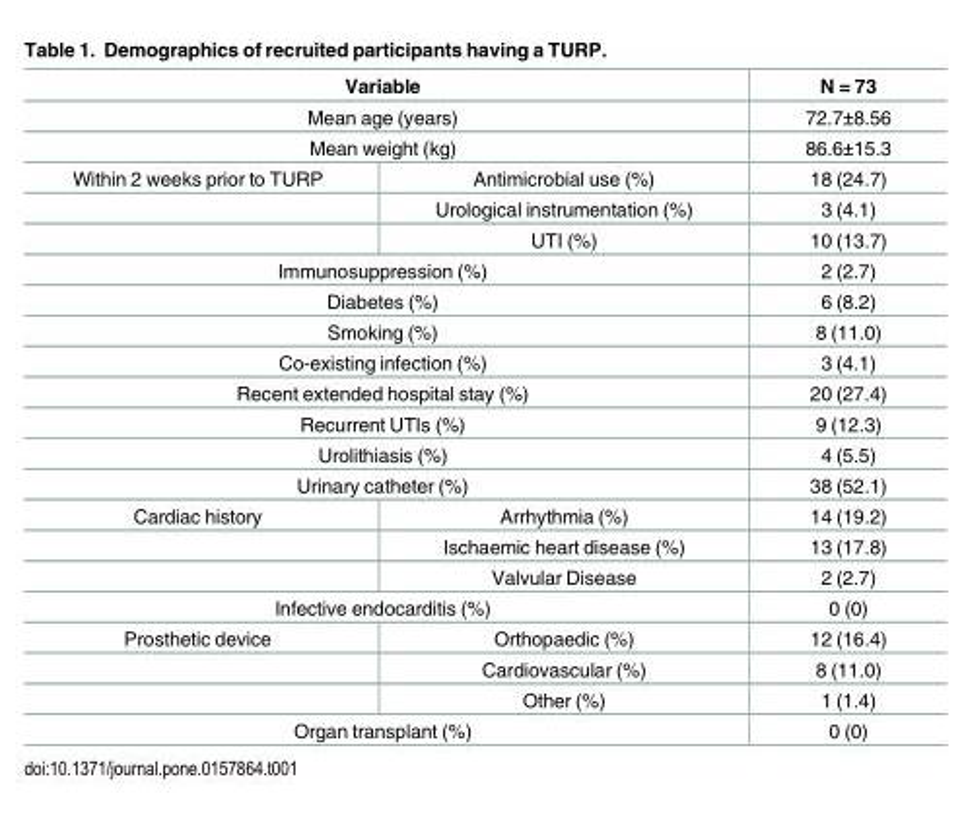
<table><thead><tr><td rowspan="3" colspan="2">Variable Mean age (years) Mean weight (kg)</td><td rowspan="4">N = 73 72.7±8.56 86.6±15.3 18 (24.7)</td></tr><tr></tr><tr></tr><tr><td>Within 2 weeks prior to TURP</td><td>Antimicrobial use (%)</td></tr></thead><tbody><tr><td></td><td>Urological instrumentation (%)</td><td>3 (4.1)</td></tr><tr><td></td><td>UTI (%)</td><td>10 (13.7)</td></tr><tr><td colspan="2">Immunosuppression (%)</td><td>2 (2.7)</td></tr><tr><td colspan="2">Diabetes (%)</td><td>6 (8.2)</td></tr><tr><td colspan="2">Smoking (%)</td><td>8 (11.0)</td></tr><tr><td colspan="2">Co-existing infection (%)</td><td>3 (4.1)</td></tr><tr><td colspan="2">Recent extended hospital stay (%)</td><td>20 (27.4)</td></tr><tr><td colspan="2">Recurrent UTIs (%)</td><td>9 (12.3)</td></tr><tr><td colspan="2">Urolithiasis (%)</td><td>4 (5.5)</td></tr><tr><td colspan="2">Urinary catheter (%)</td><td>38 (52.1)</td></tr><tr><td rowspan="3">Cardiac history</td><td>Arrhythmia (%)</td><td>14 (19.2)</td></tr><tr><td>Ischaemic heart disease (%)</td><td>13 (17.8)</td></tr><tr><td>Valvular Disease</td><td>2 (2.7)</td></tr><tr><td colspan="2">Infective endocarditis (%)</td><td>0 (0)</td></tr><tr><td rowspan="3">Prosthetic device</td><td>Orthopaedic (%)</td><td>12 (16.4)</td></tr><tr><td>Cardiovascular (%)</td><td>8 (11.0)</td></tr><tr><td>Other (%)</td><td>1 (1.4)</td></tr><tr><td colspan="2">Organ transplant (%)</td><td>0 (0)</td></tr></tbody></table>